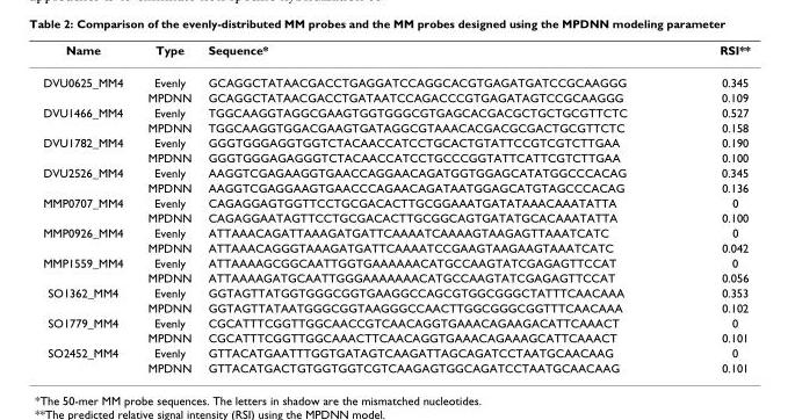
<table><thead><tr><td>Name</td><td>Type</td><td>Sequence*</td><td>RSI**</td></tr></thead><tbody><tr><td rowspan="2">DVU0625_MM4</td><td>Evenly</td><td>GCAGGCTATAACGACCTGAGGATCCAGGCACGTGAGATGATCCGCAAGGG</td><td>0.345</td></tr><tr><td>MPDNN</td><td>GCAGGCTATAACGACCTGATAATCCAGACCCGTGAGATAGTCCGCAAGGG</td><td>0.109</td></tr><tr><td rowspan="2">DVU1466_MM4</td><td>Evenly</td><td>TGGCAAGGTAGGCGAAGTGGTGGGCGTGAGCACGACGCTGCTGCGTTCTC</td><td>0.527</td></tr><tr><td>MPDNN</td><td>TGGCAAGGTGGACGAAGTGATAGGCGTAAACACGACGCGACTGCGTTCTC</td><td>0.158</td></tr><tr><td rowspan="2">DVU1782_MM4</td><td>Evenly</td><td>GGGTGGGAGGTGGTCTACAACCATCCTGCACTGTATTCCGTCGTCTTGAA</td><td>0.190</td></tr><tr><td>MPDNN</td><td>GGGTGGGAGAGGGTCTACAACCATCCTGCCCGGTATTCATTCGTCTTGAA</td><td>0.100</td></tr><tr><td rowspan="2">DVU2526_MM4</td><td>Evenly</td><td>AAGGTCGAGAAGGTGAACCAGGAACAGATGGTGGAGCATATGGCCCACAG</td><td>0.345</td></tr><tr><td>MPDNN</td><td>AAGGTCGAGGAAGTGAACCCAGAACAGATAATGGAGCATGTAGCCCACAG</td><td>0.136</td></tr><tr><td rowspan="2">MMP0707_MM4</td><td>Evenly</td><td>CAGAGGAGTGGTTCCTGCGACACTTGCGGAAATGATATAAACAAATATTA</td><td>0</td></tr><tr><td>MPDNN</td><td>CAGAGGAATAGTTCCTGCGACACTTGCGGCAGTGATATGCACAAATATTA</td><td>0.100</td></tr><tr><td rowspan="2">MMP0926_MM4</td><td>Evenly</td><td>ATTAAACAGATTAAAGATGATTCAAAATCAAAAGTAAGAGTTAAATCATC</td><td>0</td></tr><tr><td>MPDNN</td><td>ATTAAACAGGGTAAAGATGATTCAAAATCCGAAGTAAGAAGTAAATCATC</td><td>0.042</td></tr><tr><td rowspan="2">MMP1559_MM4</td><td>Evenly</td><td>ATTAAAAGCGGCAATTGGTGAAAAAACATGCCAAGTATCGAGAGTTCCAT</td><td>0</td></tr><tr><td>MPDNN</td><td>ATTAAAAGATGCAATTGGGAAAAAAACATGCCAAGTATCGAGAGTTCCAT</td><td>0.056</td></tr><tr><td rowspan="2">SO1362_MM4</td><td>Evenly</td><td>GGTAGTTATGGTGGGCGGTGAAGGCCAGCGTGGCGGGCTATTTCAACAAA</td><td>0.353</td></tr><tr><td>MPDNN</td><td>GGTAGTTATAATGGGCGGTAAGGGCCAACTTGGCGGGCGGTTTCAACAAA</td><td>0.102</td></tr><tr><td rowspan="2">SO1779_MM4</td><td>Evenly</td><td>CGCATTTCGGTTGGCAACCGTCAACAGGTGAAACAGAAGACATTCAAACT</td><td>0</td></tr><tr><td>MPDNN</td><td>CGCATTTCGGTTGGCAAACTTCAACAGGTGAAACAGAAAGCATTCAAACT</td><td>0.101</td></tr><tr><td rowspan="2">SO2452_MM4</td><td>Evenly</td><td>GTTACATGAATTTGGTGATAGTCAAGATTAGCAGATCCTAATGCAACAAG</td><td>0</td></tr><tr><td>MPDNN</td><td>GTTACATGACTGTGGTGGTCGTCAAGAGTGGCAGATCCTAATGCAACAAG</td><td>0.101</td></tr></tbody></table>